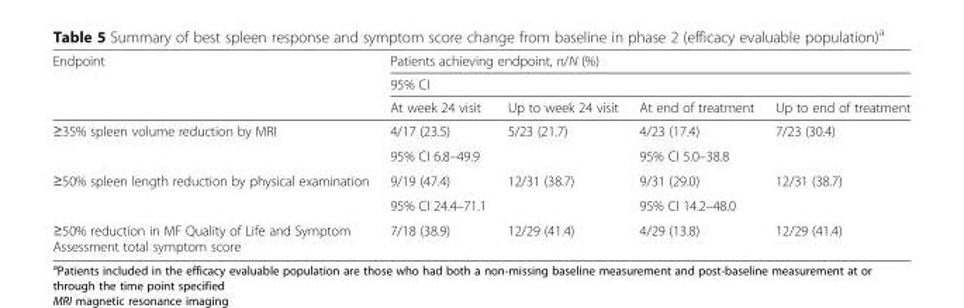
<table><thead><tr><td rowspan="3">Endpoint</td><td rowspan="2" colspan="4">Patients achieving endpoint, n/N (%) 95% CI</td></tr><tr></tr><tr><td>At week 24 visit</td><td>Up to week 24 visit</td><td>At end of treatment</td><td>Up to end of treatment</td></tr></thead><tbody><tr><td rowspan="2">≥35% spleen volume reduction by MRI</td><td>4/17 (23.5)</td><td rowspan="2">5/23 (21.7)</td><td>4/23 (17.4)</td><td rowspan="2">7/23 (30.4)</td></tr><tr><td>95% CI 6.8–49.9</td><td>95% CI 5.0–38.8</td></tr><tr><td rowspan="2">≥50% spleen length reduction by physical examination</td><td>9/19 (47.4)</td><td rowspan="2">12/31 (38.7)</td><td>9/31 (29.0)</td><td rowspan="2">12/31 (38.7)</td></tr><tr><td>95% CI 24.4–71.1</td><td>95% CI 14.2–48.0</td></tr><tr><td>≥50% reduction in MF Quality of Life and Symptom Assessment total symptom score</td><td>7/18 (38.9)</td><td>12/29 (41.4)</td><td>4/29 (13.8)</td><td>12/29 (41.4)</td></tr></tbody></table>